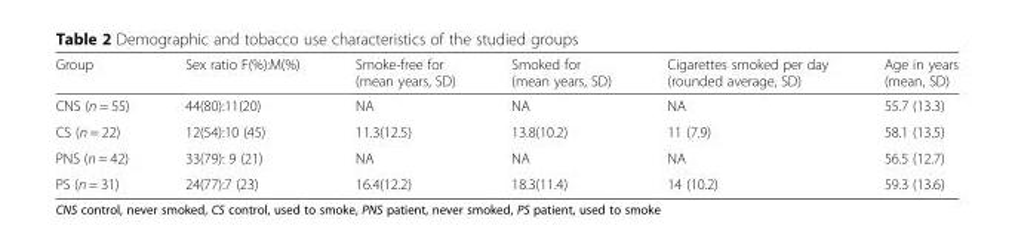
<table><thead><tr><td>Group</td><td>Sex ratio F(%):M(%)</td><td>Smoke-free for (mean years, SD)</td><td>Smoked for (mean years, SD)</td><td>Cigarettes smoked per day (rounded average, SD)</td><td>Age in years (mean, SD)</td></tr></thead><tbody><tr><td>CNS (n = 55)</td><td>44(80):11(20)</td><td>NA</td><td>NA</td><td>NA</td><td>55.7 (13.3)</td></tr><tr><td>CS (n = 22)</td><td>12(54):10 (45)</td><td>11.3(12.5)</td><td>13.8(10.2)</td><td>11 (7.9)</td><td>58.1 (13.5)</td></tr><tr><td>PNS (n = 42)</td><td>33(79): 9 (21)</td><td>NA</td><td>NA</td><td>NA</td><td>56.5 (12.7)</td></tr><tr><td>PS (n = 31)</td><td>24(77):7 (23)</td><td>16.4(12.2)</td><td>18.3(11.4)</td><td>14 (10.2)</td><td>59.3 (13.6)</td></tr></tbody></table>